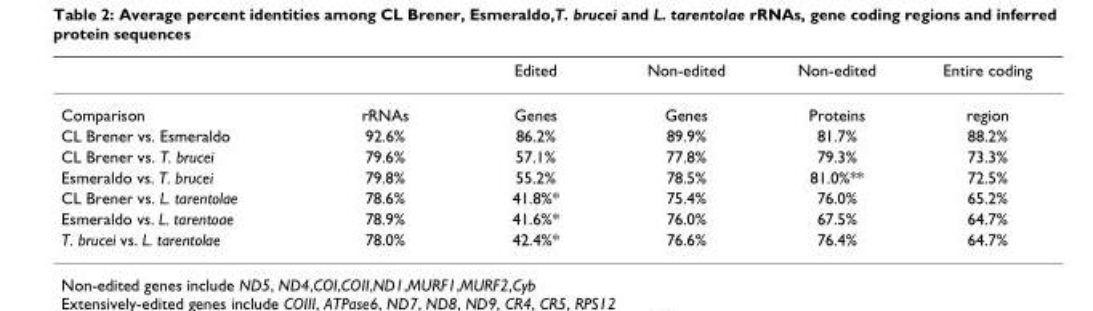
<table><thead><tr><td rowspan="2">Comparison</td><td rowspan="2">rRNAs</td><td rowspan="2">Edited Genes</td><td rowspan="2">Non-edited Genes</td><td rowspan="2">Non-edited Proteins</td><td rowspan="2">Entire coding region</td></tr><tr></tr></thead><tbody><tr><td>CL Brener vs. Esmeraldo</td><td>92.6%</td><td>86.2%</td><td>89.9%</td><td>81.7%</td><td>88.2%</td></tr><tr><td>CL Brener vs. T. brucei</td><td>79.6%</td><td>57.1%</td><td>77.8%</td><td>79.3%</td><td>73.3%</td></tr><tr><td>Esmeraldo vs. T. brucei</td><td>79.8%</td><td>55.2%</td><td>78.5%</td><td>81.0%**</td><td>72.5%</td></tr><tr><td>CL Brener vs. L. tarentolae</td><td>78.6%</td><td>41.8%*</td><td>75.4%</td><td>76.0%</td><td>65.2%</td></tr><tr><td>Esmeraldo vs. L. tarentoae</td><td>78.9%</td><td>41.6%*</td><td>76.0%</td><td>67.5%</td><td>64.7%</td></tr><tr><td>T. brucei vs. L. tarentolae</td><td>78.0%</td><td>42.4%*</td><td>76.6%</td><td>76.4%</td><td>64.7%</td></tr></tbody></table>